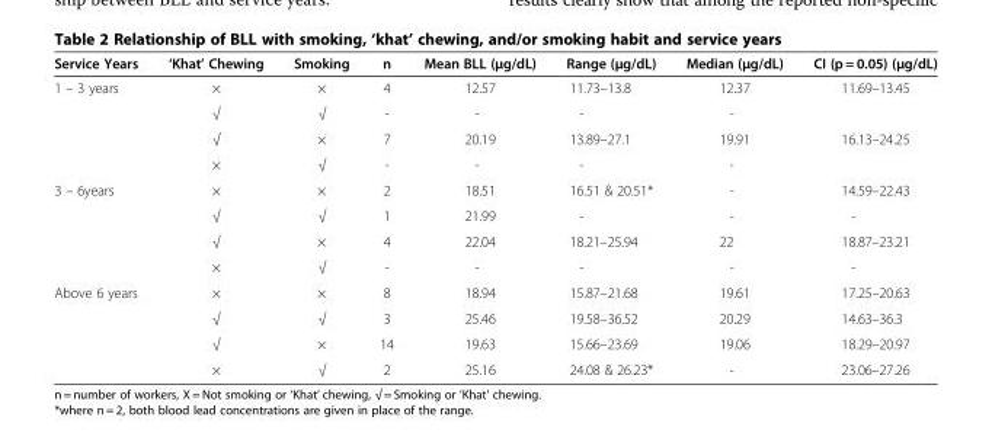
<table><thead><tr><td>Service Years</td><td>‘Khat’ Chewing</td><td>Smoking</td><td>n</td><td>Mean BLL (μg/dL)</td><td>Range (μg/dL)</td><td>Median (μg/dL)</td><td>CI (p = 0.05) (μg/dL)</td></tr></thead><tbody><tr><td rowspan="4">1 – 3 years</td><td>×</td><td>×</td><td>4</td><td>12.57</td><td>11.73–13.8</td><td>12.37</td><td>11.69–13.45</td></tr><tr><td>√</td><td>√</td><td>-</td><td>-</td><td>-</td><td>-</td><td></td></tr><tr><td>√</td><td>×</td><td>7</td><td>20.19</td><td>13.89–27.1</td><td>19.91</td><td>16.13–24.25</td></tr><tr><td>×</td><td>√</td><td>-</td><td>-</td><td>-</td><td>-</td><td></td></tr><tr><td rowspan="4">3 – 6years</td><td>×</td><td>×</td><td>2</td><td>18.51</td><td>16.51 &amp; 20.51*</td><td>-</td><td>14.59–22.43</td></tr><tr><td>√</td><td>√</td><td>1</td><td>21.99</td><td>-</td><td>-</td><td>-</td></tr><tr><td>√</td><td>×</td><td>4</td><td>22.04</td><td>18.21–25.94</td><td>22</td><td>18.87–23.21</td></tr><tr><td>×</td><td>√</td><td>-</td><td>-</td><td>-</td><td>-</td><td>-</td></tr><tr><td rowspan="4">Above 6 years</td><td>×</td><td>×</td><td>8</td><td>18.94</td><td>15.87–21.68</td><td>19.61</td><td>17.25–20.63</td></tr><tr><td>√</td><td>√</td><td>3</td><td>25.46</td><td>19.58–36.52</td><td>20.29</td><td>14.63–36.3</td></tr><tr><td>√</td><td>×</td><td>14</td><td>19.63</td><td>15.66–23.69</td><td>19.06</td><td>18.29–20.97</td></tr><tr><td>×</td><td>√</td><td>2</td><td>25.16</td><td>24.08 &amp; 26.23*</td><td>-</td><td>23.06–27.26</td></tr></tbody></table>